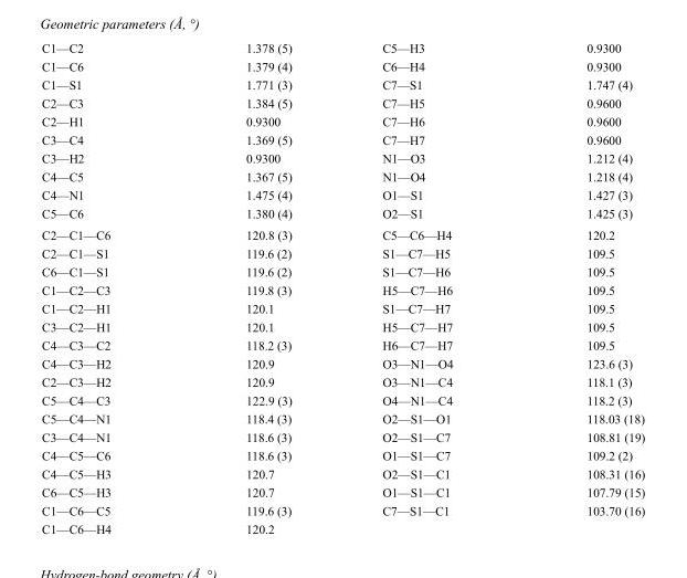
<table><tbody><tr><td>C1—C2</td><td>1.378 (5)</td><td>C5—H3</td><td>0.9300</td></tr><tr><td>C1—C6</td><td>1.379 (4)</td><td>C6—H4</td><td>0.9300</td></tr><tr><td>C1—S1</td><td>1.771 (3)</td><td>C7—S1</td><td>1.747 (4)</td></tr><tr><td>C2—C3</td><td>1.384 (5)</td><td>C7—H5</td><td>0.9600</td></tr><tr><td>C2—H1</td><td>0.9300</td><td>C7—H6</td><td>0.9600</td></tr><tr><td>C3—C4</td><td>1.369 (5)</td><td>C7—H7</td><td>0.9600</td></tr><tr><td>C3—H2</td><td>0.9300</td><td>N1—O3</td><td>1.212 (4)</td></tr><tr><td>C4—C5</td><td>1.367 (5)</td><td>N1—O4</td><td>1.218 (4)</td></tr><tr><td>C4—N1</td><td>1.475 (4)</td><td>O1—S1</td><td>1.427 (3)</td></tr><tr><td>C5—C6</td><td>1.380 (4)</td><td>O2—S1</td><td>1.425 (3)</td></tr><tr><td>C2—C1—C6</td><td>120.8 (3)</td><td>C5—C6—H4</td><td>120.2</td></tr><tr><td>C2—C1—S1</td><td>119.6 (2)</td><td>S1—C7—H5</td><td>109.5</td></tr><tr><td>C6—C1—S1</td><td>119.6 (2)</td><td>S1—C7—H6</td><td>109.5</td></tr><tr><td>C1—C2—C3</td><td>119.8 (3)</td><td>H5—C7—H6</td><td>109.5</td></tr><tr><td>C1—C2—H1</td><td>120.1</td><td>S1—C7—H7</td><td>109.5</td></tr><tr><td>C3—C2—H1</td><td>120.1</td><td>H5—C7—H7</td><td>109.5</td></tr><tr><td>C4—C3—C2</td><td>118.2 (3)</td><td>H6—C7—H7</td><td>109.5</td></tr><tr><td>C4—C3—H2</td><td>120.9</td><td>O3—N1—O4</td><td>123.6 (3)</td></tr><tr><td>C2—C3—H2</td><td>120.9</td><td>O3—N1—C4</td><td>118.1 (3)</td></tr><tr><td>C5—C4—C3</td><td>122.9 (3)</td><td>O4—N1—C4</td><td>118.2 (3)</td></tr><tr><td>C5—C4—N1</td><td>118.4 (3)</td><td>O2—S1—O1</td><td>118.03 (18)</td></tr><tr><td>C3—C4—N1</td><td>118.6 (3)</td><td>O2—S1—C7</td><td>108.81 (19)</td></tr><tr><td>C4—C5—C6</td><td>118.6 (3)</td><td>O1—S1—C7</td><td>109.2 (2)</td></tr><tr><td>C4—C5—H3</td><td>120.7</td><td>O2—S1—C1</td><td>108.31 (16)</td></tr><tr><td>C6—C5—H3</td><td>120.7</td><td>O1—S1—C1</td><td>107.79 (15)</td></tr><tr><td>C1—C6—C5</td><td>119.6 (3)</td><td>C7—S1—C1</td><td>103.70 (16)</td></tr><tr><td>C1—C6—H4</td><td>120.2</td><td></td><td></td></tr></tbody></table>